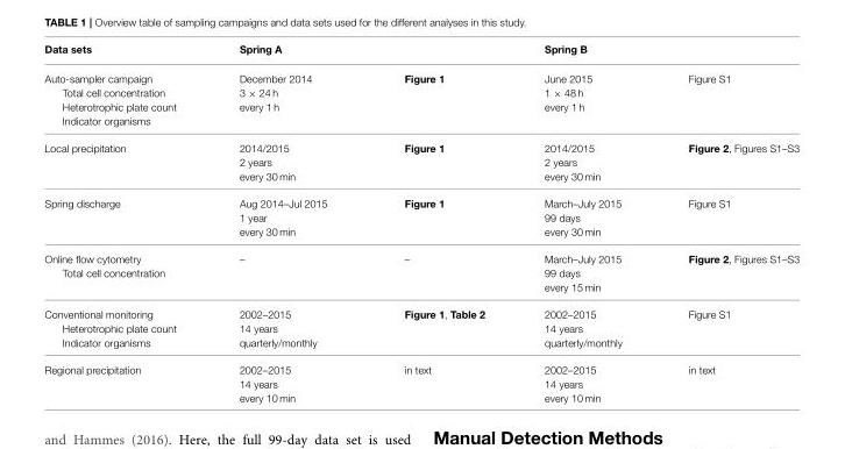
<table><thead><tr><td>Data sets</td><td>Spring A</td><td></td><td>Spring B</td><td></td></tr></thead><tbody><tr><td>Auto-sampler campaign Total cell concentration Heterotrophic plate count Indicator organisms</td><td>December 2014 3 × 24 h every 1 h</td><td>Figure 1</td><td>June 2015 1 × 48 h every 1 h</td><td>Figure S1</td></tr><tr><td>Local precipitation</td><td>2014/2015 2 years every 30 min</td><td>Figure 1</td><td>2014/2015 2 years every 30 min</td><td>Figure 2, Figures S1–S3</td></tr><tr><td>Spring discharge</td><td>Aug 2014–Jul 2015 1 year every 30 min</td><td>Figure 1</td><td>March–July 2015 99 days every 30 min</td><td>Figure S1</td></tr><tr><td>Online flow cytometry Total cell concentration</td><td>–</td><td>–</td><td>March–July 2015 99 days every 15 min</td><td>Figure 2, Figures S1–S3</td></tr><tr><td>Conventional monitoring Heterotrophic plate count Indicator organisms</td><td>2002–2015 14 years quarterly/monthly</td><td>Figure 1, Table 2</td><td>2002–2015 14 years quarterly/monthly</td><td>Figure S1</td></tr><tr><td>Regional precipitation</td><td>2002–2015 14 years every 10 min</td><td>in text</td><td>2002–2015 14 years every 10 min</td><td>in text</td></tr></tbody></table>